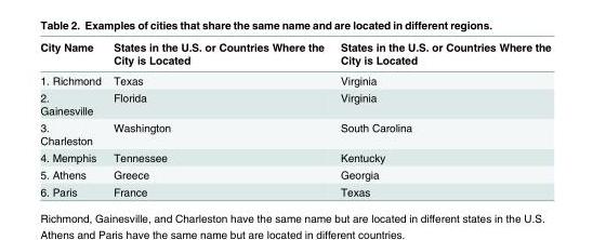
<table><thead><tr><td>City Name</td><td>States in the U.S. or Countries Where the City is Located</td><td>States in the U.S. or Countries Where the City is Located</td></tr></thead><tbody><tr><td>1. Richmond</td><td>Texas</td><td>Virginia</td></tr><tr><td>2. Gainesville</td><td>Florida</td><td>Virginia</td></tr><tr><td>3. Charleston</td><td>Washington</td><td>South Carolina</td></tr><tr><td>4. Memphis</td><td>Tennessee</td><td>Kentucky</td></tr><tr><td>5. Athens</td><td>Greece</td><td>Georgia</td></tr><tr><td>6. Paris</td><td>France</td><td>Texas</td></tr></tbody></table>